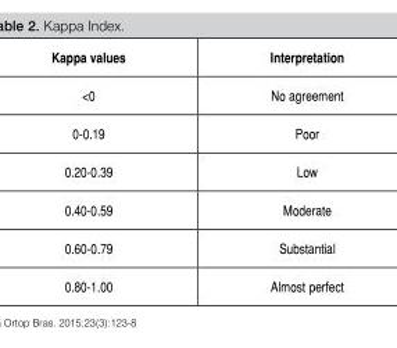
<table><thead><tr><td>Kappa values</td><td>Interpretation</td></tr></thead><tbody><tr><td>&lt;0</td><td>No agreement</td></tr><tr><td>0-0.19</td><td>Poor</td></tr><tr><td>0.20-0.39</td><td>Low</td></tr><tr><td>0.40-0.59</td><td>Moderate</td></tr><tr><td>0.60-0.79</td><td>Substantial</td></tr><tr><td>0.80-1.00</td><td>Almost perfect</td></tr></tbody></table>